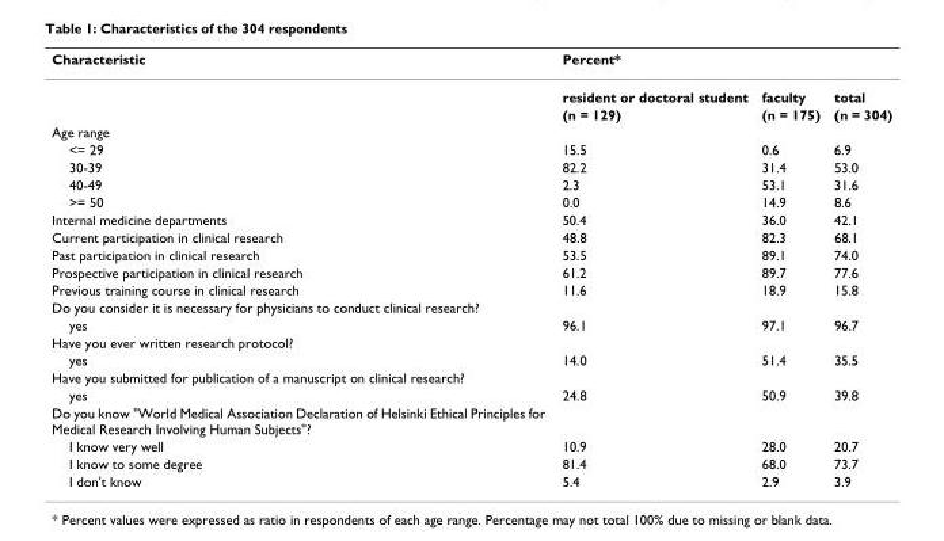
<table><thead><tr><td rowspan="2">Characteristic</td><td colspan="3">Percent*</td></tr><tr><td>resident or doctoral student</td><td>faculty</td><td>total</td></tr></thead><tbody><tr><td></td><td>(n = 129)</td><td>(n = 175)</td><td>(n = 304)</td></tr><tr><td colspan="4">Age range</td></tr><tr><td>&lt;= 29</td><td>15.5</td><td>0.6</td><td>6.9</td></tr><tr><td>30-39</td><td>82.2</td><td>31.4</td><td>53.0</td></tr><tr><td>40-49</td><td>2.3</td><td>53.1</td><td>31.6</td></tr><tr><td>&gt;= 50</td><td>0.0</td><td>14.9</td><td>8.6</td></tr><tr><td>Internal medicine departments</td><td>50.4</td><td>36.0</td><td>42.1</td></tr><tr><td>Current participation in clinical research</td><td>48.8</td><td>82.3</td><td>68.1</td></tr><tr><td>Past participation in clinical research</td><td>53.5</td><td>89.1</td><td>74.0</td></tr><tr><td>Prospective participation in clinical research</td><td>61.2</td><td>89.7</td><td>77.6</td></tr><tr><td>Previous training course in clinical research</td><td>11.6</td><td>18.9</td><td>15.8</td></tr><tr><td colspan="4">Do you consider it is necessary for physicians to conduct clinical research?</td></tr><tr><td>yes</td><td>96.1</td><td>97.1</td><td>96.7</td></tr><tr><td colspan="4">Have you ever written research protocol?</td></tr><tr><td>yes</td><td>14.0</td><td>51.4</td><td>35.5</td></tr><tr><td colspan="4">Have you submitted for publication of a manuscript on clinical research?</td></tr><tr><td>yes</td><td>24.8</td><td>50.9</td><td>39.8</td></tr><tr><td colspan="4">Do you know &quot;World Medical Association Declaration of Helsinki Ethical Principles for Medical Research Involving Human Subjects&quot;?</td></tr><tr><td>I know very well</td><td>10.9</td><td>28.0</td><td>20.7</td></tr><tr><td>I know to some degree</td><td>81.4</td><td>68.0</td><td>73.7</td></tr><tr><td>I don&#x27;t know</td><td>5.4</td><td>2.9</td><td>3.9</td></tr></tbody></table>